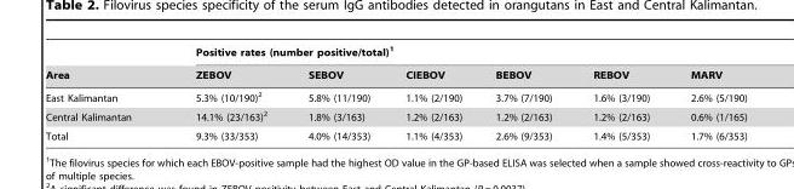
<table><thead><tr><td rowspan="2">Area</td><td colspan="6">Positive rates (number positive/total)<sup>1</sup></td></tr><tr><td>ZEBOV</td><td>SEBOV</td><td>CIEBOV</td><td>BEBOV</td><td>REBOV</td><td>MARV</td></tr></thead><tbody><tr><td>East Kalimantan</td><td>5.3% (10/190)<sup>2</sup></td><td>5.8% (11/190)</td><td>1.1% (2/190)</td><td>3.7% (7/190)</td><td>1.6% (3/190)</td><td>2.6% (5/190)</td></tr><tr><td>Central Kalimantan</td><td>14.1% (23/163)<sup>2</sup></td><td>1.8% (3/163)</td><td>1.2% (2/163)</td><td>1.2% (2/163)</td><td>1.2% (2/163)</td><td>0.6% (1/165)</td></tr><tr><td>Total</td><td>9.3% (33/353)</td><td>4.0% (14/353)</td><td>1.1% (4/353)</td><td>2.6% (9/353)</td><td>1.4% (5/353)</td><td>1.7% (6/353)</td></tr></tbody></table>